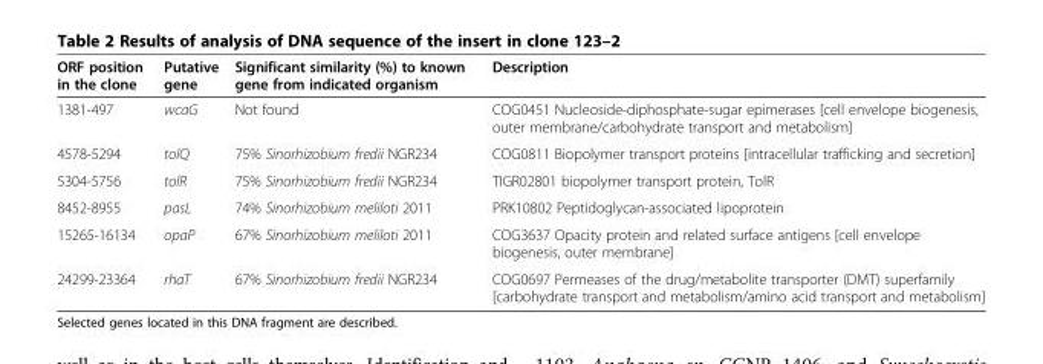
<table><thead><tr><td>ORF position in the clone</td><td>Putative gene</td><td>Significant similarity (%) to known gene from indicated organism</td><td>Description</td></tr></thead><tbody><tr><td>1381-497</td><td>wcaG</td><td>Not found</td><td>COG0451 Nucleoside-diphosphate-sugar epimerases [cell envelope biogenesis, outer membrane/carbohydrate transport and metabolism]</td></tr><tr><td>4578-5294</td><td>tolQ</td><td>75% Sinorhizobium fredii NGR234</td><td>COG0811 Biopolymer transport proteins [intracellular trafficking and secretion]</td></tr><tr><td>5304-5756</td><td>tolR</td><td>75% Sinorhizobium fredii NGR234</td><td>TIGR02801 biopolymer transport protein, TolR</td></tr><tr><td>8452-8955</td><td>pasL</td><td>74% Sinorhizobium meliloti 2011</td><td>PRK10802 Peptidoglycan-associated lipoprotein</td></tr><tr><td>15265-16134</td><td>opaP</td><td>67% Sinorhizobium meliloti 2011</td><td>COG3637 Opacity protein and related surface antigens [cell envelope biogenesis, outer membrane]</td></tr><tr><td>24299-23364</td><td>rhaT</td><td>67% Sinorhizobium fredii NGR234</td><td>COG0697 Permeases of the drug/metabolite transporter (DMT) superfamily [carbohydrate transport and metabolism/amino acid transport and metabolism]</td></tr></tbody></table>